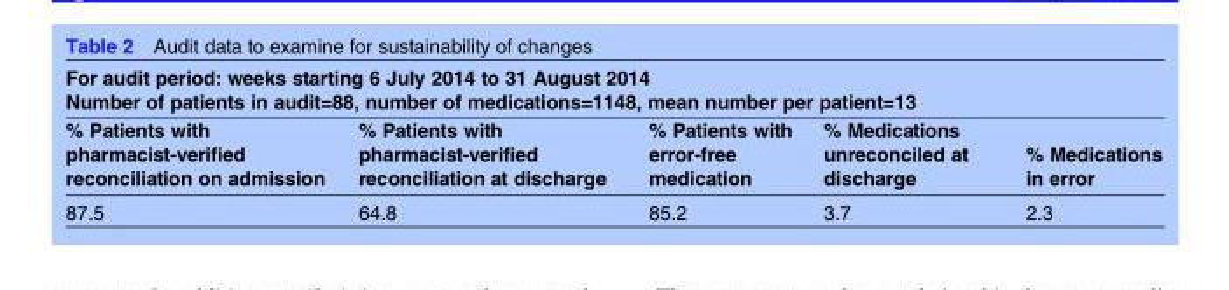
<table><thead><tr><td rowspan="2" colspan="5">For audit period: weeks starting 6 July 2014 to 31 August 2014 Number of patients in audit=88, number of medications=1148, mean number per patient=13</td></tr><tr></tr><tr><td>% Patients with pharmacist-verified reconciliation on admission</td><td>% Patients with pharmacist-verified reconciliation at discharge</td><td>% Patients with error-free medication</td><td>% Medications unreconciled at discharge</td><td>% Medications in error</td></tr></thead><tbody><tr><td>87.5</td><td>64.8</td><td>85.2</td><td>3.7</td><td>2.3</td></tr></tbody></table>